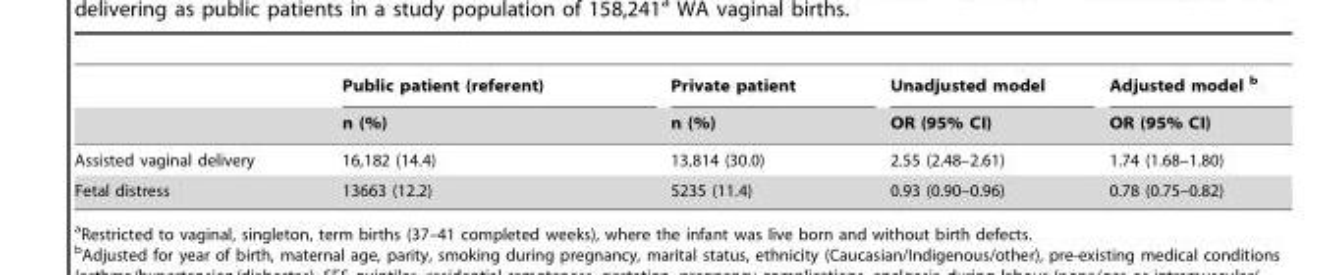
<table><thead><tr><td rowspan="2"></td><td rowspan="2">Public patient (referent) n (%)</td><td rowspan="2">Private patient n (%)</td><td rowspan="2">Unadjusted model OR (95% CI)</td><td rowspan="2">Adjusted model b OR (95% CI)</td></tr><tr></tr></thead><tbody><tr><td>Assisted vaginal delivery</td><td>16,182 (14.4)</td><td>13,814 (30.0)</td><td>2.55 (2.48–2.61)</td><td>1.74 (1.68–1.80)</td></tr><tr><td>Fetal distress</td><td>13663 (12.2)</td><td>5235 (11.4)</td><td>0.93 (0.90–0.96)</td><td>0.78 (0.75–0.82)</td></tr></tbody></table>